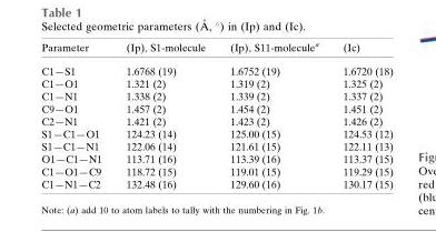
<table><thead><tr><td>Parameter</td><td>(Ip), S1-molecule</td><td>(Ip), S11-molecule<sup>a</sup></td><td>(Ic)</td></tr></thead><tbody><tr><td>C1—S1</td><td>1.6768 (19)</td><td>1.6752 (19)</td><td>1.6720 (18)</td></tr><tr><td>C1—O1</td><td>1.321 (2)</td><td>1.319 (2)</td><td>1.325 (2)</td></tr><tr><td>C1—N1</td><td>1.338 (2)</td><td>1.339 (2)</td><td>1.337 (2)</td></tr><tr><td>C9—O1</td><td>1.457 (2)</td><td>1.454 (2)</td><td>1.451 (2)</td></tr><tr><td>C2—N1</td><td>1.421 (2)</td><td>1.423 (2)</td><td>1.426 (2)</td></tr><tr><td>S1—C1—O1</td><td>124.23 (14)</td><td>125.00 (15)</td><td>124.53 (12)</td></tr><tr><td>S1—C1—N1</td><td>122.06 (14)</td><td>121.61 (15)</td><td>122.11 (13)</td></tr><tr><td>O1—C1—N1</td><td>113.71 (16)</td><td>113.39 (16)</td><td>113.37 (15)</td></tr><tr><td>C1—O1—C9</td><td>118.72 (15)</td><td>119.01 (15)</td><td>119.29 (15)</td></tr><tr><td>C1—N1—C2</td><td>132.48 (16)</td><td>129.60 (16)</td><td>130.17 (15)</td></tr></tbody></table>